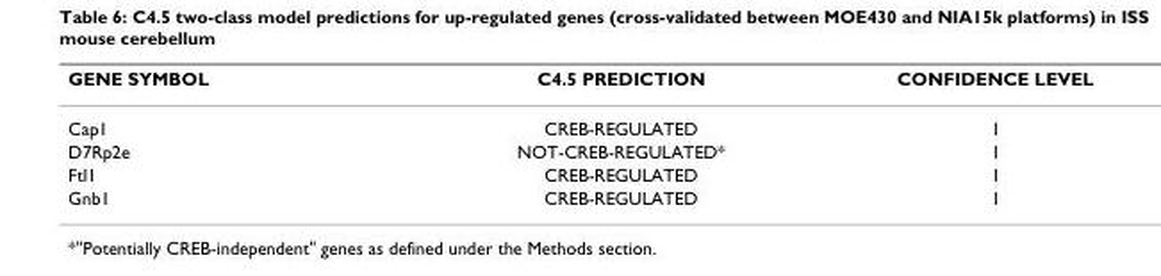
<table><thead><tr><td>GENE SYMBOL</td><td>C4.5 PREDICTION</td><td>CONFIDENCE LEVEL</td></tr></thead><tbody><tr><td>Cap1</td><td>CREB-REGULATED</td><td>1</td></tr><tr><td>D7Rp2e</td><td>NOT-CREB-REGULATED*</td><td>1</td></tr><tr><td>Ftl1</td><td>CREB-REGULATED</td><td>1</td></tr><tr><td>Gnb1</td><td>CREB-REGULATED</td><td>1</td></tr></tbody></table>